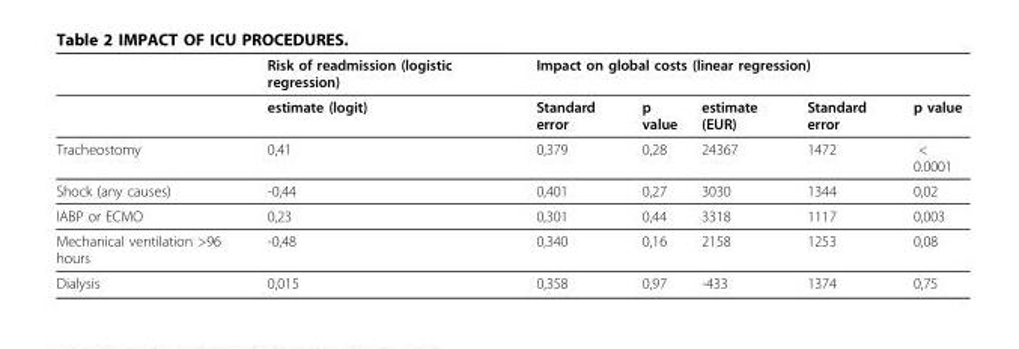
<table><thead><tr><td rowspan="2"></td><td rowspan="2">Risk of readmission (logistic regression) estimate (logit)</td><td colspan="5">Impact on global costs (linear regression)</td></tr><tr><td>Standard error</td><td>p value</td><td>estimate (EUR)</td><td>Standard error</td><td>p value</td></tr></thead><tbody><tr><td>Tracheostomy</td><td>0,41</td><td>0,379</td><td>0,28</td><td>24367</td><td>1472</td><td>&lt; 0.0001</td></tr><tr><td>Shock (any causes)</td><td>-0,44</td><td>0,401</td><td>0,27</td><td>3030</td><td>1344</td><td>0,02</td></tr><tr><td>IABP or ECMO</td><td>0,23</td><td>0,301</td><td>0,44</td><td>3318</td><td>1117</td><td>0,003</td></tr><tr><td>Mechanical ventilation &gt;96 hours</td><td>-0,48</td><td>0,340</td><td>0,16</td><td>2158</td><td>1253</td><td>0,08</td></tr><tr><td>Dialysis</td><td>0,015</td><td>0,358</td><td>0,97</td><td>-433</td><td>1374</td><td>0,75</td></tr></tbody></table>